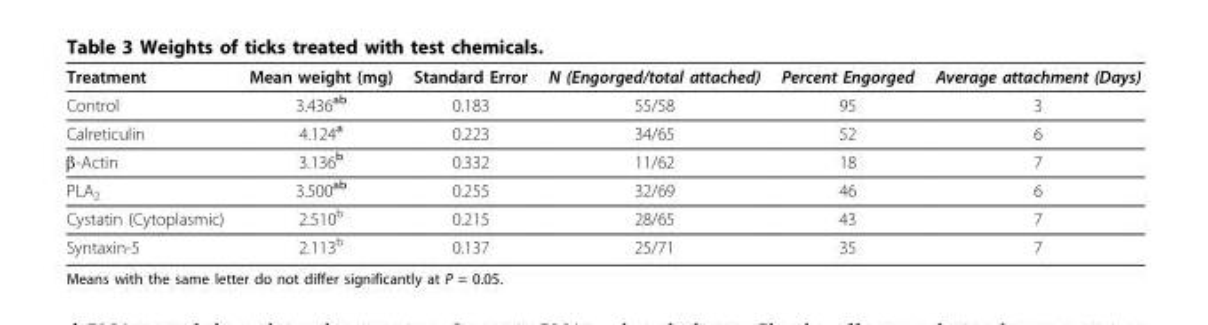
<table><thead><tr><td>Treatment</td><td>Mean weight (mg)</td><td>Standard Error</td><td>N (Engorged/total attached)</td><td>Percent Engorged</td><td>Average attachment (Days)</td></tr></thead><tbody><tr><td>Control</td><td>3.436<sup>ab</sup></td><td>0.183</td><td>55/58</td><td>95</td><td>3</td></tr><tr><td>Calreticulin</td><td>4.124<sup>a</sup></td><td>0.223</td><td>34/65</td><td>52</td><td>6</td></tr><tr><td>β-Actin</td><td>3.136<sup>b</sup></td><td>0.332</td><td>11/62</td><td>18</td><td>7</td></tr><tr><td>PLA<sub>2</sub></td><td>3.500<sup>ab</sup></td><td>0.255</td><td>32/69</td><td>46</td><td>6</td></tr><tr><td>Cystatin (Cytoplasmic)</td><td>2.510<sup>b</sup></td><td>0.215</td><td>28/65</td><td>43</td><td>7</td></tr><tr><td>Syntaxin-5</td><td>2.113<sup>b</sup></td><td>0.137</td><td>25/71</td><td>35</td><td>7</td></tr></tbody></table>